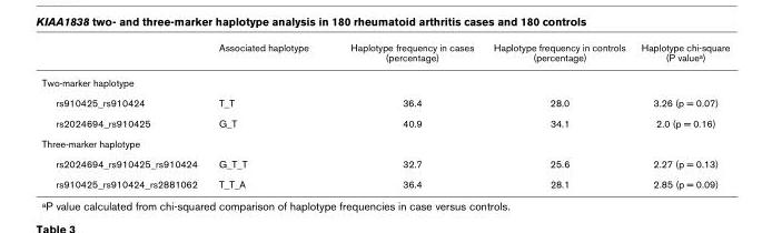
<table><thead><tr><td></td><td>Associated haplotype</td><td>Haplotype frequency in cases (percentage)</td><td>Haplotype frequency in controls (percentage)</td><td>Haplotype chi-square (P valuea)</td></tr></thead><tbody><tr><td colspan="5">Two-marker haplotype</td></tr><tr><td>rs910425_rs910424</td><td>T_T</td><td>36.4</td><td>28.0</td><td>3.26 (p = 0.07)</td></tr><tr><td>rs2024694_rs910425</td><td>G_T</td><td>40.9</td><td>34.1</td><td>2.0 (p = 0.16)</td></tr><tr><td colspan="5">Three-marker haplotype</td></tr><tr><td>rs2024694_rs910425_rs910424</td><td>G_T_T</td><td>32.7</td><td>25.6</td><td>2.27 (p = 0.13)</td></tr><tr><td>rs910425_rs910424_rs2881062</td><td>T_T_A</td><td>36.4</td><td>28.1</td><td>2.85 (p = 0.09)</td></tr></tbody></table>